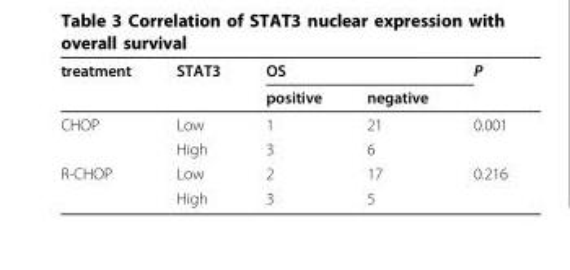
<table><thead><tr><td rowspan="2">treatment</td><td rowspan="2">STAT3</td><td colspan="2">OS</td><td rowspan="2">P</td></tr><tr><td>positive</td><td>negative</td></tr></thead><tbody><tr><td rowspan="2">CHOP</td><td>Low</td><td>1</td><td>21</td><td>0.001</td></tr><tr><td>High</td><td>3</td><td>6</td><td></td></tr><tr><td rowspan="2">R-CHOP</td><td>Low</td><td>2</td><td>17</td><td>0.216</td></tr><tr><td>High</td><td>3</td><td>5</td><td></td></tr></tbody></table>